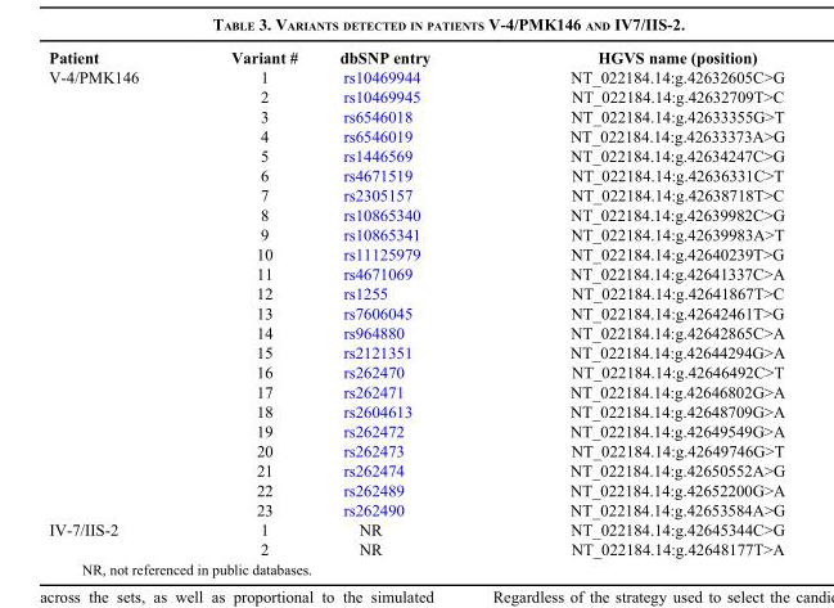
<table><thead><tr><td>Patient</td><td>Variant #</td><td>dbSNP entry</td><td>HGVS name (position)</td></tr></thead><tbody><tr><td rowspan="23">V-4/PMK146</td><td>1</td><td>rs10469944</td><td>NT_022184.14:g.42632605C&gt;G</td></tr><tr><td>2</td><td>rs10469945</td><td>NT_022184.14:g.42632709T&gt;C</td></tr><tr><td>3</td><td>rs6546018</td><td>NT_022184.14:g.42633355G&gt;T</td></tr><tr><td>4</td><td>rs6546019</td><td>NT_022184.14:g.42633373A&gt;G</td></tr><tr><td>5</td><td>rs1446569</td><td>NT_022184.14:g.42634247C&gt;G</td></tr><tr><td>6</td><td>rs4671519</td><td>NT_022184.14:g.42636331C&gt;T</td></tr><tr><td>7</td><td>rs2305157</td><td>NT_022184.14:g.42638718T&gt;C</td></tr><tr><td>8</td><td>rs10865340</td><td>NT_022184.14:g.42639982C&gt;G</td></tr><tr><td>9</td><td>rs10865341</td><td>NT_022184.14:g.42639983A&gt;T</td></tr><tr><td>10</td><td>rs11125979</td><td>NT_022184.14:g.42640239T&gt;G</td></tr><tr><td>11</td><td>rs4671069</td><td>NT_022184.14:g.42641337C&gt;A</td></tr><tr><td>12</td><td>rs1255</td><td>NT_022184.14:g.42641867T&gt;C</td></tr><tr><td>13</td><td>rs7606045</td><td>NT_022184.14:g.42642461T&gt;G</td></tr><tr><td>14</td><td>rs964880</td><td>NT_022184.14:g.42642865C&gt;A</td></tr><tr><td>15</td><td>rs2121351</td><td>NT_022184.14:g.42644294G&gt;A</td></tr><tr><td>16</td><td>rs262470</td><td>NT_022184.14:g.42646492C&gt;T</td></tr><tr><td>17</td><td>rs262471</td><td>NT_022184.14:g.42646802G&gt;A</td></tr><tr><td>18</td><td>rs2604613</td><td>NT_022184.14:g.42648709G&gt;A</td></tr><tr><td>19</td><td>rs262472</td><td>NT_022184.14:g.42649549G&gt;A</td></tr><tr><td>20</td><td>rs262473</td><td>NT_022184.14:g.42649746G&gt;T</td></tr><tr><td>21</td><td>rs262474</td><td>NT_022184.14:g.42650552A&gt;G</td></tr><tr><td>22</td><td>rs262489</td><td>NT_022184.14:g.42652200G&gt;A</td></tr><tr><td>23</td><td>rs262490</td><td>NT_022184.14:g.42653584A&gt;G</td></tr><tr><td rowspan="2">IV-7/IIS-2</td><td>1</td><td>NR</td><td>NT_022184.14:g.42645344C&gt;G</td></tr><tr><td>2</td><td>NR</td><td>NT_022184.14:g.42648177T&gt;A</td></tr></tbody></table>